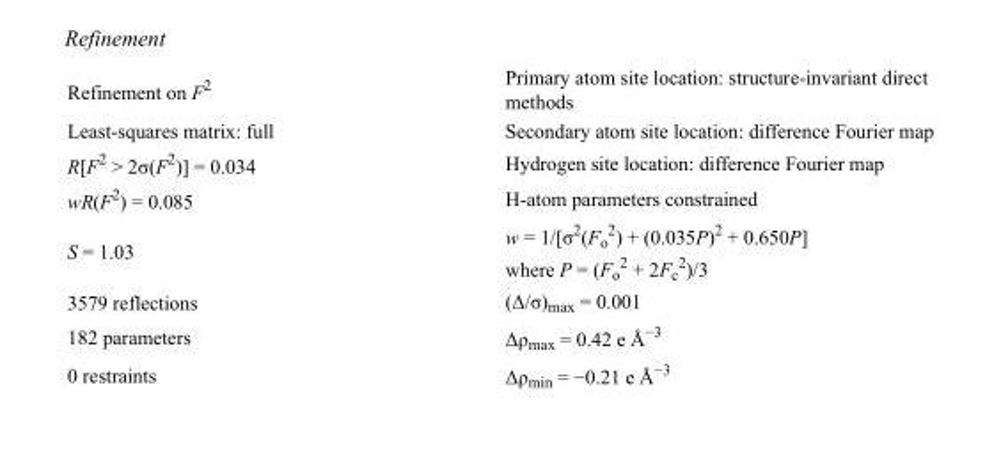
<table><tbody><tr><td>Refinement on F<sup>2</sup></td><td>Primary atom site location: structure-invariant direct methods</td></tr><tr><td>Least-squares matrix: full</td><td>Secondary atom site location: difference Fourier map</td></tr><tr><td>R[F<sup>2</sup> &gt; 2σ(F<sup>2</sup>)] = 0.034</td><td>Hydrogen site location: difference Fourier map</td></tr><tr><td>wR(F<sup>2</sup>) = 0.085</td><td>H-atom parameters constrained</td></tr><tr><td>S = 1.03</td><td>w = 1/[σ<sup>2</sup>(F<sub>o</sub> <sup>2</sup>) + (0.035P)<sup>2</sup> + 0.650P] where P = (F<sub>o</sub> <sup>2</sup> + 2F<sub>c</sub> <sup>2</sup>)/3</td></tr><tr><td>3579 reflections</td><td>(Δ/σ)<sub>max</sub> = 0.001</td></tr><tr><td>182 parameters</td><td>Δρ<sub>max</sub> = 0.42 e Å<sup>−3</sup></td></tr><tr><td>0 restraints</td><td>Δρ<sub>min</sub> = −0.21 e Å<sup>−3</sup></td></tr></tbody></table>